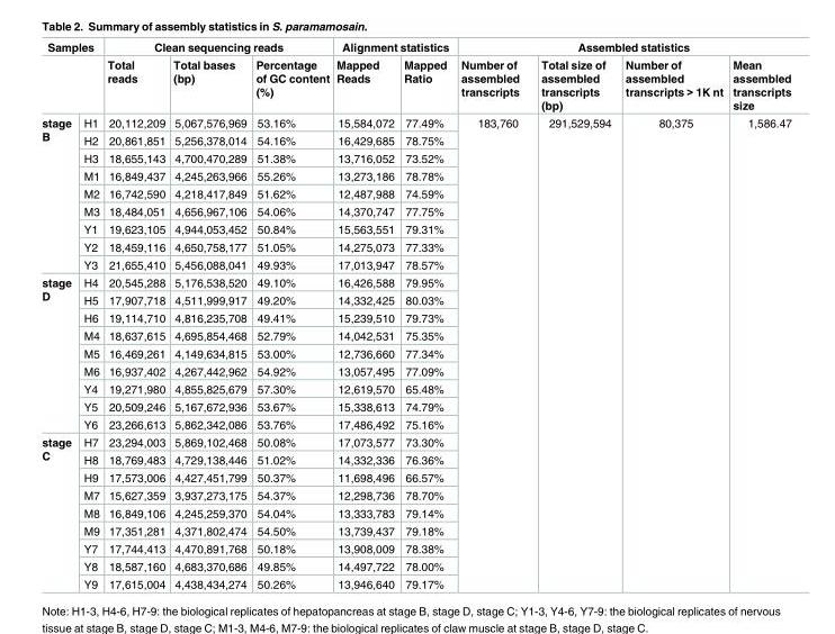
<table><thead><tr><td colspan="2">Samples</td><td colspan="3">Clean sequencing reads</td><td colspan="2">Alignment statistics</td><td colspan="4">Assembled statistics</td></tr><tr><td></td><td></td><td>Total reads</td><td>Total bases (bp)</td><td>Percentage of GC content (%)</td><td>Mapped Reads</td><td>Mapped Ratio</td><td>Number of assembled transcripts</td><td>Total size of assembled transcripts (bp)</td><td>Number of assembled transcripts &gt; 1K nt</td><td>Mean assembled transcripts size</td></tr></thead><tbody><tr><td rowspan="9">stage B</td><td>H1</td><td>20,112,209</td><td>5,067,576,969</td><td>53.16%</td><td>15,584,072</td><td>77.49%</td><td rowspan="27">183,760</td><td rowspan="27">291,529,594</td><td rowspan="27">80,375</td><td rowspan="27">1,586.47</td></tr><tr><td>H2</td><td>20,861,851</td><td>5,256,378,014</td><td>54.16%</td><td>16,429,685</td><td>78.75%</td></tr><tr><td>H3</td><td>18,655,143</td><td>4,700,470,289</td><td>51.38%</td><td>13,716,052</td><td>73.52%</td></tr><tr><td>M1</td><td>16,849,437</td><td>4,245,263,966</td><td>55.26%</td><td>13,273,186</td><td>78.78%</td></tr><tr><td>M2</td><td>16,742,590</td><td>4,218,417,849</td><td>51.62%</td><td>12,487,988</td><td>74.59%</td></tr><tr><td>M3</td><td>18,484,051</td><td>4,656,967,106</td><td>54.06%</td><td>14,370,747</td><td>77.75%</td></tr><tr><td>Y1</td><td>19,623,105</td><td>4,944,053,452</td><td>50.84%</td><td>15,563,551</td><td>79.31%</td></tr><tr><td>Y2</td><td>18,459,116</td><td>4,650,758,177</td><td>51.05%</td><td>14,275,073</td><td>77.33%</td></tr><tr><td>Y3</td><td>21,655,410</td><td>5,456,088,041</td><td>49.93%</td><td>17,013,947</td><td>78.57%</td></tr><tr><td rowspan="9">stage D</td><td>H4</td><td>20,545,288</td><td>5,176,538,520</td><td>49.10%</td><td>16,426,588</td><td>79.95%</td></tr><tr><td>H5</td><td>17,907,718</td><td>4,511,999,917</td><td>49.20%</td><td>14,332,425</td><td>80.03%</td></tr><tr><td>H6</td><td>19,114,710</td><td>4,816,235,708</td><td>49.41%</td><td>15,239,510</td><td>79.73%</td></tr><tr><td>M4</td><td>18,637,615</td><td>4,695,854,468</td><td>52.79%</td><td>14,042,531</td><td>75.35%</td></tr><tr><td>M5</td><td>16,469,261</td><td>4,149,634,815</td><td>53.00%</td><td>12,736,660</td><td>77.34%</td></tr><tr><td>M6</td><td>16,937,402</td><td>4,267,442,962</td><td>54.92%</td><td>13,057,495</td><td>77.09%</td></tr><tr><td>Y4</td><td>19,271,980</td><td>4,855,825,679</td><td>57.30%</td><td>12,619,570</td><td>65.48%</td></tr><tr><td>Y5</td><td>20,509,246</td><td>5,167,672,936</td><td>53.67%</td><td>15,338,613</td><td>74.79%</td></tr><tr><td>Y6</td><td>23,266,613</td><td>5,862,342,086</td><td>53.76%</td><td>17,486,492</td><td>75.16%</td></tr><tr><td rowspan="9">stage C</td><td>H7</td><td>23,294,003</td><td>5,869,102,468</td><td>50.08%</td><td>17,073,577</td><td>73.30%</td></tr><tr><td>H8</td><td>18,769,483</td><td>4,729,138,446</td><td>51.02%</td><td>14,332,336</td><td>76.36%</td></tr><tr><td>H9</td><td>17,573,006</td><td>4,427,451,799</td><td>50.37%</td><td>11,698,496</td><td>66.57%</td></tr><tr><td>M7</td><td>15,627,359</td><td>3,937,273,175</td><td>54.37%</td><td>12,298,736</td><td>78.70%</td></tr><tr><td>M8</td><td>16,849,106</td><td>4,245,259,370</td><td>54.04%</td><td>13,333,783</td><td>79.14%</td></tr><tr><td>M9</td><td>17,351,281</td><td>4,371,802,474</td><td>54.50%</td><td>13,739,437</td><td>79.18%</td></tr><tr><td>Y7</td><td>17,744,413</td><td>4,470,891,768</td><td>50.18%</td><td>13,908,009</td><td>78.38%</td></tr><tr><td>Y8</td><td>18,587,160</td><td>4,683,370,686</td><td>49.85%</td><td>14,497,722</td><td>78.00%</td></tr><tr><td>Y9</td><td>17,615,004</td><td>4,438,434,274</td><td>50.26%</td><td>13,946,640</td><td>79.17%</td></tr></tbody></table>